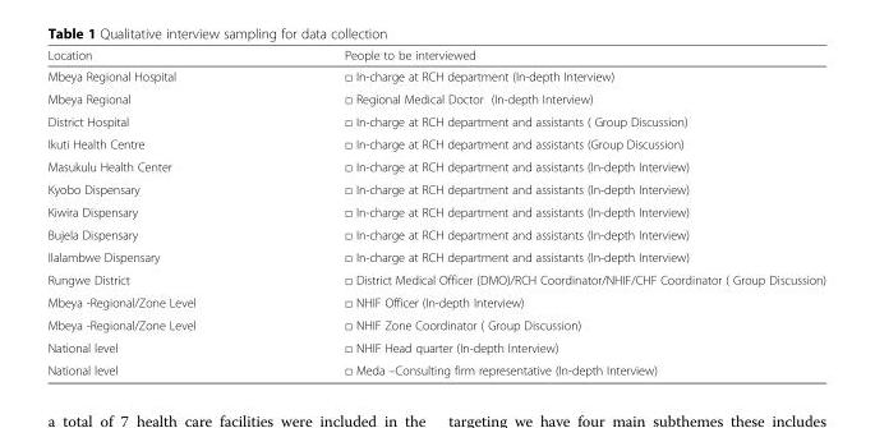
<table><thead><tr><td>Location</td><td>People to be interviewed</td></tr></thead><tbody><tr><td>Mbeya Regional Hospital</td><td>□ In-charge at RCH department (In-depth Interview)</td></tr><tr><td>Mbeya Regional</td><td>□ Regional Medical Doctor (In-depth Interview)</td></tr><tr><td>District Hospital</td><td>□ In-charge at RCH department and assistants ( Group Discussion)</td></tr><tr><td>Ikuti Health Centre</td><td>□ In-charge at RCH department and assistants (Group Discussion)</td></tr><tr><td>Masukulu Health Center</td><td>□ In-charge at RCH department and assistants (In-depth Interview)</td></tr><tr><td>Kyobo Dispensary</td><td>□ In-charge at RCH department and assistants (In-depth Interview)</td></tr><tr><td>Kiwira Dispensary</td><td>□ In-charge at RCH department and assistants (In-depth Interview)</td></tr><tr><td>Bujela Dispensary</td><td>□ In-charge at RCH department and assistants (In-depth Interview)</td></tr><tr><td>Ilalambwe Dispensary</td><td>□ In-charge at RCH department and assistants (In-depth Interview)</td></tr><tr><td>Rungwe District</td><td>□ District Medical Officer (DMO)/RCH Coordinator/NHIF/CHF Coordinator ( Group Discussion)</td></tr><tr><td>Mbeya -Regional/Zone Level</td><td>□ NHIF Officer (In-depth Interview)</td></tr><tr><td>Mbeya -Regional/Zone Level</td><td>□ NHIF Zone Coordinator ( Group Discussion)</td></tr><tr><td>National level</td><td>□ NHIF Head quarter (In-depth Interview)</td></tr><tr><td>National level</td><td>□ Meda –Consulting firm representative (In-depth Interview)</td></tr></tbody></table>